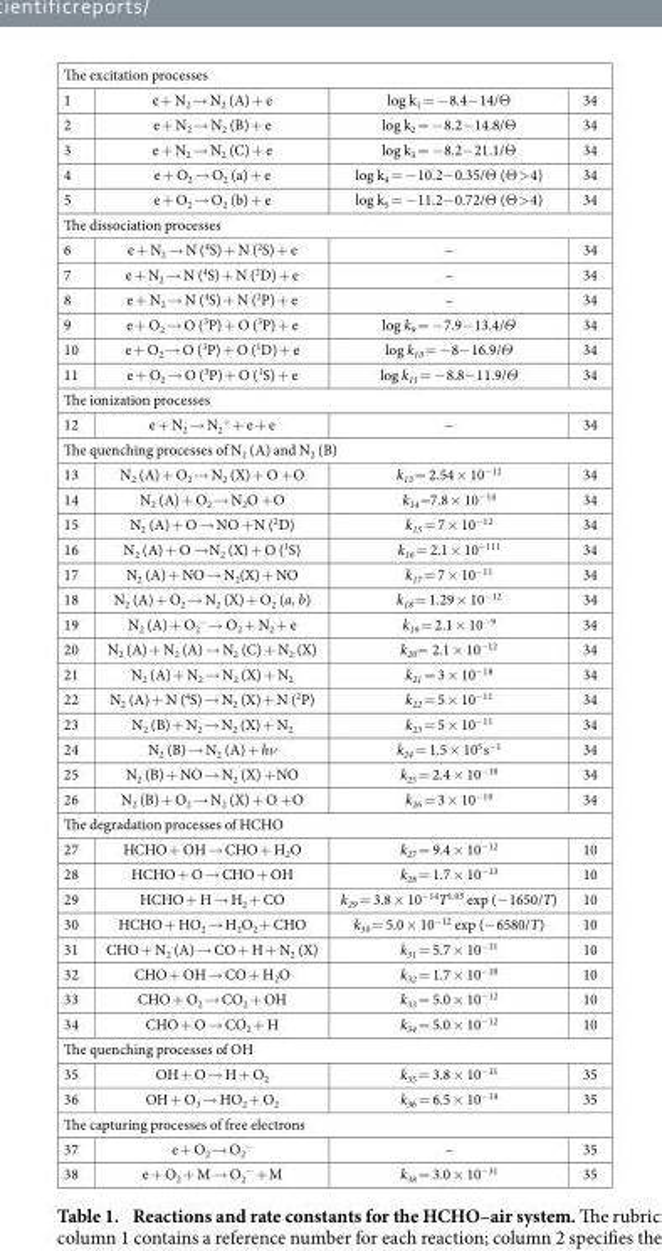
<table><tbody><tr><td colspan="4">The excitation processes</td></tr><tr><td>1</td><td>e + N<sub>2</sub> → N<sub>2</sub> (A) + e</td><td>log k<sub>1</sub> = − 8.4− 14/Θ</td><td>34</td></tr><tr><td>2</td><td>e + N<sub>2</sub> → N<sub>2</sub> (B) + e</td><td>log k<sub>2</sub> = − 8.2− 14.8/Θ</td><td>34</td></tr><tr><td>3</td><td>e + N<sub>2</sub> → N<sub>2</sub> (C) + e</td><td>log k<sub>3</sub> = − 8.2− 21.1/Θ</td><td>34</td></tr><tr><td>4</td><td>e + O<sub>2</sub> → O<sub>2</sub> (a) + e</td><td>log k<sub>4</sub> = − 10.2− 0.35/Θ (Θ &gt; 4)</td><td>34</td></tr><tr><td>5</td><td>e + O<sub>2</sub> → O<sub>2</sub> (b) + e</td><td>log k<sub>5</sub> = − 11.2− 0.72/Θ (Θ &gt; 4)</td><td>34</td></tr><tr><td colspan="4">The dissociation processes</td></tr><tr><td>6</td><td>e + N<sub>2</sub> → N (<sup>4</sup>S) + N (<sup>2</sup>S) + e</td><td>–</td><td>34</td></tr><tr><td>7</td><td>e + N<sub>2</sub> → N (<sup>4</sup>S) + N (<sup>2</sup>D) + e</td><td>–</td><td>34</td></tr><tr><td>8</td><td>e + N<sub>2</sub> → N (<sup>4</sup>S) + N (<sup>2</sup>P) + e</td><td>–</td><td>34</td></tr><tr><td>9</td><td>e + O<sub>2</sub> → O (<sup>3</sup>P) + O (<sup>3</sup>P) + e</td><td>log k<sub>9</sub> = − 7.9− 13.4/Θ</td><td>34</td></tr><tr><td>10</td><td>e + O<sub>2</sub> → O (<sup>3</sup>P) + O (<sup>1</sup>D) + e</td><td>log k<sub>10</sub> = − 8− 16.9/Θ</td><td>34</td></tr><tr><td>11</td><td>e + O<sub>2</sub> → O (<sup>3</sup>P) + O (<sup>1</sup>S) + e</td><td>log k<sub>11</sub> = − 8.8− 11.9/Θ</td><td>34</td></tr><tr><td colspan="4">The ionization processes</td></tr><tr><td>12</td><td>e + N<sub>2</sub> → N<sub>2</sub> <sup>+</sup> + e + e</td><td>–</td><td>34</td></tr><tr><td colspan="4">The quenching processes of N<sub>2</sub> (A) and N<sub>2</sub> (B)</td></tr><tr><td>13</td><td>N<sub>2</sub> (A) + O<sub>2</sub> → N<sub>2</sub> (X) + O + O</td><td>k<sub>13</sub> = 2.54 × 10<sup>−12</sup></td><td>34</td></tr><tr><td>14</td><td>N<sub>2</sub> (A) + O<sub>2</sub> → N<sub>2</sub>O + O</td><td>k<sub>14</sub>=7.8 × 10<sup>−14</sup></td><td>34</td></tr><tr><td>15</td><td>N<sub>2</sub> (A) + O → NO + N (<sup>2</sup>D)</td><td>k<sub>15</sub> = 7 × 10<sup>−12</sup></td><td>34</td></tr><tr><td>16</td><td>N<sub>2</sub> (A) + O → N<sub>2</sub> (X) + O (<sup>1</sup>S)</td><td>k<sub>16</sub> = 2.1 × 10<sup>−111</sup></td><td>34</td></tr><tr><td>17</td><td>N<sub>2</sub> (A) + NO → N<sub>2</sub>(X) + NO</td><td>k<sub>17</sub> = 7 × 10<sup>−11</sup></td><td>34</td></tr><tr><td>18</td><td>N<sub>2</sub> (A) + O<sub>2</sub> → N<sub>2</sub> (X) + O<sub>2</sub> (a, b)</td><td>k<sub>18</sub> = 1.29 × 10<sup>−12</sup></td><td>34</td></tr><tr><td>19</td><td>N<sub>2</sub> (A) + O<sub>2</sub> <sup>−</sup>→ O<sub>2</sub> + N<sub>2</sub> + e</td><td>k<sub>19</sub> = 2.1 × 10<sup>−9</sup></td><td>34</td></tr><tr><td>20</td><td>N<sub>2</sub> (A) + N<sub>2</sub> (A) → N<sub>2</sub> (C) + N<sub>2</sub> (X)</td><td>k<sub>20</sub>= 2.1 × 10<sup>−12</sup></td><td>34</td></tr><tr><td>21</td><td>N<sub>2</sub> (A) + N<sub>2</sub> → N<sub>2</sub> (X) + N<sub>2</sub></td><td>k<sub>21</sub> = 3 × 10<sup>−18</sup></td><td>34</td></tr><tr><td>22</td><td>N<sub>2</sub> (A) + N (<sup>4</sup>S) → N<sub>2</sub> (X) + N (<sup>2</sup>P)</td><td>k<sub>22</sub> = 5 × 10<sup>−11</sup></td><td>34</td></tr><tr><td>23</td><td>N<sub>2</sub> (B) + N<sub>2</sub> → N<sub>2</sub> (X) + N<sub>2</sub></td><td>k<sub>23</sub> = 5 × 10<sup>−11</sup></td><td>34</td></tr><tr><td>24</td><td>N<sub>2</sub> (B) → N<sub>2</sub> (A) + hν</td><td>k<sub>24</sub> = 1.5 × 10<sup>5</sup> s<sup>−1</sup></td><td>34</td></tr><tr><td>25</td><td>N<sub>2</sub> (B) + NO → N<sub>2</sub> (X) + NO</td><td>k<sub>25</sub> = 2.4 × 10<sup>−10</sup></td><td>34</td></tr><tr><td>26</td><td>N<sub>2</sub> (B) + O<sub>2</sub> → N<sub>2</sub> (X) + O + O</td><td>k<sub>26</sub> = 3 × 10<sup>−10</sup></td><td>34</td></tr><tr><td colspan="4">The degradation processes of HCHO</td></tr><tr><td>27</td><td>HCHO + OH → CHO + H<sub>2</sub>O</td><td>k<sub>27</sub> = 9.4 × 10<sup>−12</sup></td><td>10</td></tr><tr><td>28</td><td>HCHO + O → CHO + OH</td><td>k<sub>28</sub> = 1.7 × 10<sup>−13</sup></td><td>10</td></tr><tr><td>29</td><td>HCHO + H → H<sub>2</sub> + CO</td><td>k<sub>29</sub> = 3.8 × 10<sup>−14</sup>T<sup>1.05</sup> exp (− 1650/T)</td><td>10</td></tr><tr><td>30</td><td>HCHO + HO<sub>2</sub> → H<sub>2</sub>O<sub>2</sub> + CHO</td><td>k<sub>30</sub> = 5.0 × 10<sup>−12</sup> exp (− 6580/T)</td><td>10</td></tr><tr><td>31</td><td>CHO + N<sub>2</sub> (A) → CO + H + N<sub>2</sub> (X)</td><td>k<sub>31</sub> = 5.7 × 10<sup>−11</sup></td><td>10</td></tr><tr><td>32</td><td>CHO + OH → CO + H<sub>2</sub>O</td><td>k<sub>32</sub> = 1.7 × 10<sup>−10</sup></td><td>10</td></tr><tr><td>33</td><td>CHO + O<sub>2</sub> → CO<sub>2</sub> + OH</td><td>k<sub>33</sub> = 5.0 × 10<sup>−12</sup></td><td>10</td></tr><tr><td>34</td><td>CHO + O → CO<sub>2</sub> + H</td><td>k<sub>34</sub> = 5.0 × 10<sup>−12</sup></td><td>10</td></tr><tr><td colspan="4">The quenching processes of OH</td></tr><tr><td>35</td><td>OH + O → H + O<sub>2</sub></td><td>k<sub>35</sub> = 3.8 × 10<sup>−11</sup></td><td>35</td></tr><tr><td>36</td><td>OH + O<sub>3</sub> → HO<sub>2</sub> + O<sub>2</sub></td><td>k<sub>36</sub> = 6.5 × 10<sup>−14</sup></td><td>35</td></tr><tr><td colspan="4">The capturing processes of free electrons</td></tr><tr><td>37</td><td>e + O<sub>2</sub> → O<sub>2</sub> <sup>−</sup></td><td>–</td><td>35</td></tr><tr><td>38</td><td>e + O<sub>2</sub> + M → O<sub>2</sub> <sup>−</sup> + M</td><td>k<sub>38</sub> = 3.0 × 10<sup>−31</sup></td><td>35</td></tr></tbody></table>